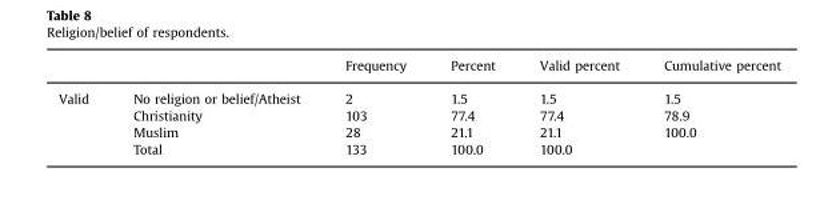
<table><thead><tr><td></td><td></td><td>Frequency</td><td>Percent</td><td>Valid percent</td><td>Cumulative percent</td></tr></thead><tbody><tr><td rowspan="4">Valid</td><td>No religion or belief/Atheist</td><td>2</td><td>1.5</td><td>1.5</td><td>1.5</td></tr><tr><td>Christianity</td><td>103</td><td>77.4</td><td>77.4</td><td>78.9</td></tr><tr><td>Muslim</td><td>28</td><td>21.1</td><td>21.1</td><td>100.0</td></tr><tr><td>Total</td><td>133</td><td>100.0</td><td>100.0</td><td></td></tr></tbody></table>